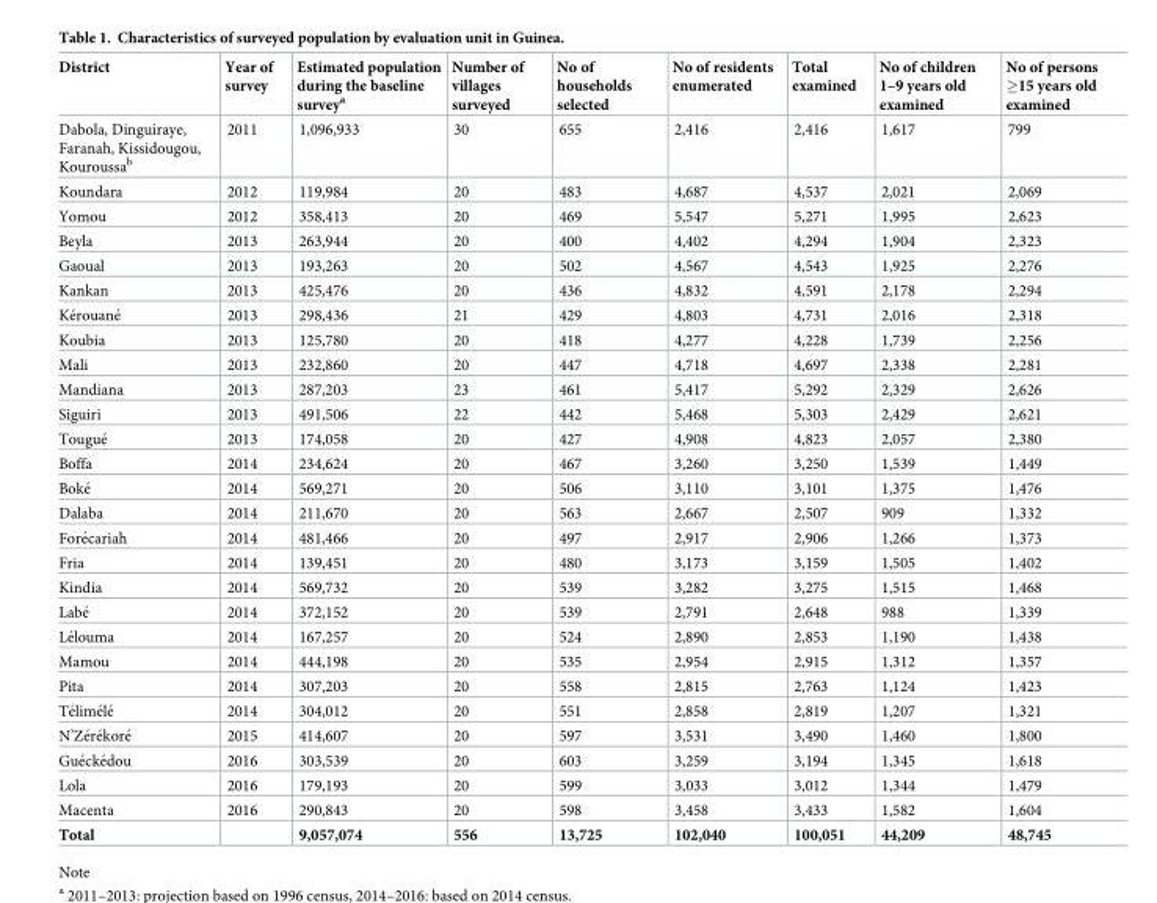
<table><thead><tr><td>District</td><td>Year of survey</td><td>Estimated population during the baseline survey<sup>a</sup></td><td>Number of villages surveyed</td><td>No of households selected</td><td>No of residents enumerated</td><td>Total examined</td><td>No of children 1–9 years old examined</td><td>No of persons ≥15 years old examined</td></tr></thead><tbody><tr><td>Dabola, Dinguiraye, Faranah, Kissidougou, Kouroussa<sup>b</sup></td><td>2011</td><td>1,096,933</td><td>30</td><td>655</td><td>2,416</td><td>2,416</td><td>1,617</td><td>799</td></tr><tr><td>Koundara</td><td>2012</td><td>119,984</td><td>20</td><td>483</td><td>4,687</td><td>4,537</td><td>2,021</td><td>2,069</td></tr><tr><td>Yomou</td><td>2012</td><td>358,413</td><td>20</td><td>469</td><td>5,547</td><td>5,271</td><td>1,995</td><td>2,623</td></tr><tr><td>Beyla</td><td>2013</td><td>263,944</td><td>20</td><td>400</td><td>4,402</td><td>4,294</td><td>1,904</td><td>2,323</td></tr><tr><td>Gaoual</td><td>2013</td><td>193,263</td><td>20</td><td>502</td><td>4,567</td><td>4,543</td><td>1,925</td><td>2,276</td></tr><tr><td>Kankan</td><td>2013</td><td>425,476</td><td>20</td><td>436</td><td>4,832</td><td>4,591</td><td>2,178</td><td>2,294</td></tr><tr><td>Ke´rouane´</td><td>2013</td><td>298,436</td><td>21</td><td>429</td><td>4,803</td><td>4,731</td><td>2,016</td><td>2,318</td></tr><tr><td>Koubia</td><td>2013</td><td>125,780</td><td>20</td><td>418</td><td>4,277</td><td>4,228</td><td>1,739</td><td>2,256</td></tr><tr><td>Mali</td><td>2013</td><td>232,860</td><td>20</td><td>447</td><td>4,718</td><td>4,697</td><td>2,338</td><td>2,281</td></tr><tr><td>Mandiana</td><td>2013</td><td>287,203</td><td>23</td><td>461</td><td>5,417</td><td>5,292</td><td>2,329</td><td>2,626</td></tr><tr><td>Siguiri</td><td>2013</td><td>491,506</td><td>22</td><td>442</td><td>5,468</td><td>5,303</td><td>2,429</td><td>2,621</td></tr><tr><td>Tougue´</td><td>2013</td><td>174,058</td><td>20</td><td>427</td><td>4,908</td><td>4,823</td><td>2,057</td><td>2,380</td></tr><tr><td>Boffa</td><td>2014</td><td>234,624</td><td>20</td><td>467</td><td>3,260</td><td>3,250</td><td>1,539</td><td>1,449</td></tr><tr><td>Boke´</td><td>2014</td><td>569,271</td><td>20</td><td>506</td><td>3,110</td><td>3,101</td><td>1,375</td><td>1,476</td></tr><tr><td>Dalaba</td><td>2014</td><td>211,670</td><td>20</td><td>563</td><td>2,667</td><td>2,507</td><td>909</td><td>1,332</td></tr><tr><td>Fore´cariah</td><td>2014</td><td>481,466</td><td>20</td><td>497</td><td>2,917</td><td>2,906</td><td>1,266</td><td>1,373</td></tr><tr><td>Fria</td><td>2014</td><td>139,451</td><td>20</td><td>480</td><td>3,173</td><td>3,159</td><td>1,505</td><td>1,402</td></tr><tr><td>Kindia</td><td>2014</td><td>569,732</td><td>20</td><td>539</td><td>3,282</td><td>3,275</td><td>1,515</td><td>1,468</td></tr><tr><td>Labe´</td><td>2014</td><td>372,152</td><td>20</td><td>539</td><td>2,791</td><td>2,648</td><td>988</td><td>1,339</td></tr><tr><td>Le´louma</td><td>2014</td><td>167,257</td><td>20</td><td>524</td><td>2,890</td><td>2,853</td><td>1,190</td><td>1,438</td></tr><tr><td>Mamou</td><td>2014</td><td>444,198</td><td>20</td><td>535</td><td>2,954</td><td>2,915</td><td>1,312</td><td>1,357</td></tr><tr><td>Pita</td><td>2014</td><td>307,203</td><td>20</td><td>558</td><td>2,815</td><td>2,763</td><td>1,124</td><td>1,423</td></tr><tr><td>Te´lime´le´</td><td>2014</td><td>304,012</td><td>20</td><td>551</td><td>2,858</td><td>2,819</td><td>1,207</td><td>1,321</td></tr><tr><td>N’Ze´re´kore´</td><td>2015</td><td>414,607</td><td>20</td><td>597</td><td>3,531</td><td>3,490</td><td>1,460</td><td>1,800</td></tr><tr><td>Gue´cke´dou</td><td>2016</td><td>303,539</td><td>20</td><td>603</td><td>3,259</td><td>3,194</td><td>1,345</td><td>1,618</td></tr><tr><td>Lola</td><td>2016</td><td>179,193</td><td>20</td><td>599</td><td>3,033</td><td>3,012</td><td>1,344</td><td>1,479</td></tr><tr><td>Macenta</td><td>2016</td><td>290,843</td><td>20</td><td>598</td><td>3,458</td><td>3,433</td><td>1,582</td><td>1,604</td></tr><tr><td>Total</td><td></td><td>9,057,074</td><td>556</td><td>13,725</td><td>102,040</td><td>100,051</td><td>44,209</td><td>48,745</td></tr></tbody></table>